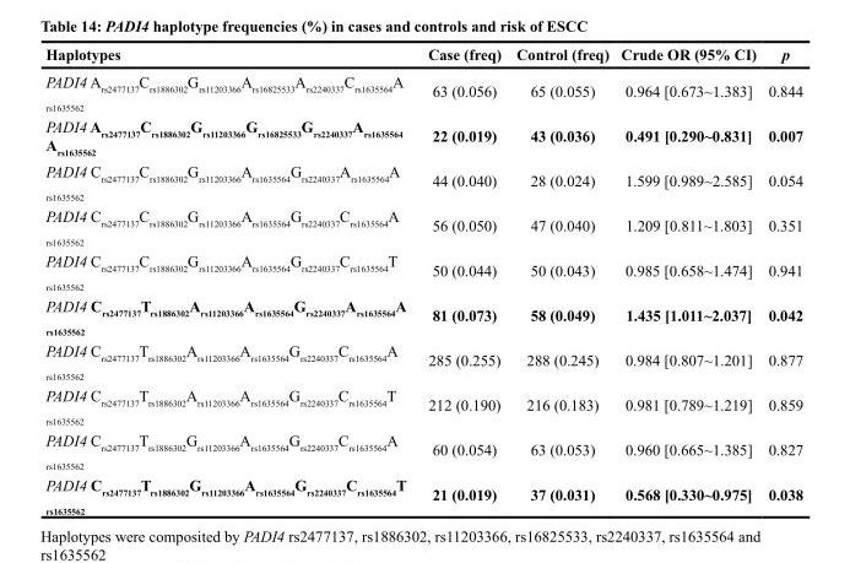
<table><thead><tr><td>Haplotypes</td><td>Case (freq)</td><td>Control (freq)</td><td>Crude OR (95% CI)</td><td>p</td></tr></thead><tbody><tr><td>PADI4 A<sub>rs2477137</sub>C<sub>rs1886302</sub>G<sub>rs11203366</sub>A<sub>rs16825533</sub>A<sub>rs2240337</sub>C<sub>rs1635564</sub>A <sub>rs1635562</sub></td><td>63 (0.056)</td><td>65 (0.055)</td><td>0.964 [0.673~1.383]</td><td>0.844</td></tr><tr><td>PADI4 A<sub>rs2477137</sub>C<sub>rs1886302</sub>G<sub>rs11203366</sub>G<sub>rs16825533</sub>G<sub>rs2240337</sub>A<sub>rs1635564</sub> A<sub>rs1635562</sub></td><td>22 (0.019)</td><td>43 (0.036)</td><td>0.491 [0.290~0.831]</td><td>0.007</td></tr><tr><td>PADI4 C<sub>rs2477137</sub>C<sub>rs1886302</sub>G<sub>rs11203366</sub>A<sub>rs1635564</sub>G<sub>rs2240337</sub>A<sub>rs1635564</sub>A <sub>rs1635562</sub></td><td>44 (0.040)</td><td>28 (0.024)</td><td>1.599 [0.989~2.585]</td><td>0.054</td></tr><tr><td>PADI4 C<sub>rs2477137</sub>C<sub>rs1886302</sub>G<sub>rs11203366</sub>A<sub>rs1635564</sub>G<sub>rs2240337</sub>C<sub>rs1635564</sub>A <sub>rs1635562</sub></td><td>56 (0.050)</td><td>47 (0.040)</td><td>1.209 [0.811~1.803]</td><td>0.351</td></tr><tr><td>PADI4 C<sub>rs2477137</sub>C<sub>rs1886302</sub>G<sub>rs11203366</sub>A<sub>rs1635564</sub>G<sub>rs2240337</sub>C<sub>rs1635564</sub>T <sub>rs1635562</sub></td><td>50 (0.044)</td><td>50 (0.043)</td><td>0.985 [0.658~1.474]</td><td>0.941</td></tr><tr><td>PADI4 C<sub>rs2477137</sub>T<sub>rs1886302</sub>A<sub>rs11203366</sub>A<sub>rs1635564</sub>G<sub>rs2240337</sub>A<sub>rs1635564</sub>A <sub>rs1635562</sub></td><td>81 (0.073)</td><td>58 (0.049)</td><td>1.435 [1.011~2.037]</td><td>0.042</td></tr><tr><td>PADI4 C<sub>rs2477137</sub>T<sub>rs1886302</sub>A<sub>rs11203366</sub>A<sub>rs1635564</sub>G<sub>rs2240337</sub>C<sub>rs1635564</sub>A <sub>rs1635562</sub></td><td>285 (0.255)</td><td>288 (0.245)</td><td>0.984 [0.807~1.201]</td><td>0.877</td></tr><tr><td>PADI4 C<sub>rs2477137</sub>T<sub>rs1886302</sub>A<sub>rs11203366</sub>A<sub>rs1635564</sub>G<sub>rs2240337</sub>C<sub>rs1635564</sub>T <sub>rs1635562</sub></td><td>212 (0.190)</td><td>216 (0.183)</td><td>0.981 [0.789~1.219]</td><td>0.859</td></tr><tr><td>PADI4 C<sub>rs2477137</sub>T<sub>rs1886302</sub>G<sub>rs11203366</sub>A<sub>rs1635564</sub>G<sub>rs2240337</sub>C<sub>rs1635564</sub>A <sub>rs1635562</sub></td><td>60 (0.054)</td><td>63 (0.053)</td><td>0.960 [0.665~1.385]</td><td>0.827</td></tr><tr><td>PADI4 C<sub>rs2477137</sub>T<sub>rs1886302</sub>G<sub>rs11203366</sub>A<sub>rs1635564</sub>G<sub>rs2240337</sub>C<sub>rs1635564</sub>T <sub>rs1635562</sub></td><td>21 (0.019)</td><td>37 (0.031)</td><td>0.568 [0.330~0.975]</td><td>0.038</td></tr></tbody></table>